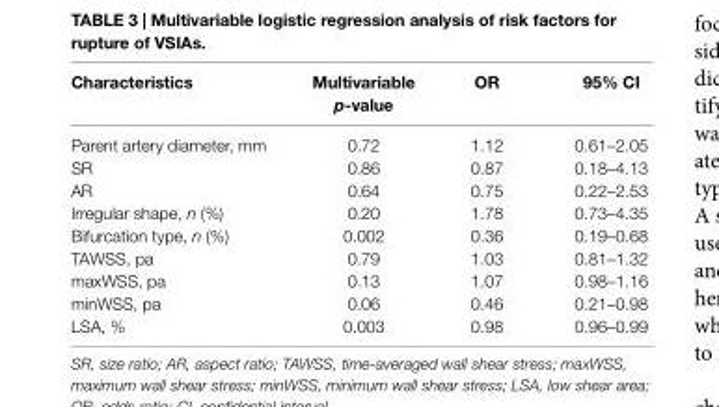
<table><thead><tr><td>characteristics</td><td>Multivariable p-value</td><td>Or</td><td>95% ci</td></tr></thead><tbody><tr><td>Parent artery diameter, mm</td><td>0.72</td><td>1.12</td><td>0.61–2.05</td></tr><tr><td>SR</td><td>0.86</td><td>0.87</td><td>0.18–4.13</td></tr><tr><td>AR</td><td>0.64</td><td>0.75</td><td>0.22–2.53</td></tr><tr><td>Irregular shape, n (%)</td><td>0.20</td><td>1.78</td><td>0.73–4.35</td></tr><tr><td>Bifurcation type, n (%)</td><td>0.002</td><td>0.36</td><td>0.19–0.68</td></tr><tr><td>TAWSS, pa</td><td>0.79</td><td>1.03</td><td>0.81–1.32</td></tr><tr><td>maxWSS, pa</td><td>0.13</td><td>1.07</td><td>0.98–1.16</td></tr><tr><td>minWSS, pa</td><td>0.06</td><td>0.46</td><td>0.21–0.98</td></tr><tr><td>LSA, %</td><td>0.003</td><td>0.98</td><td>0.96–0.99</td></tr></tbody></table>